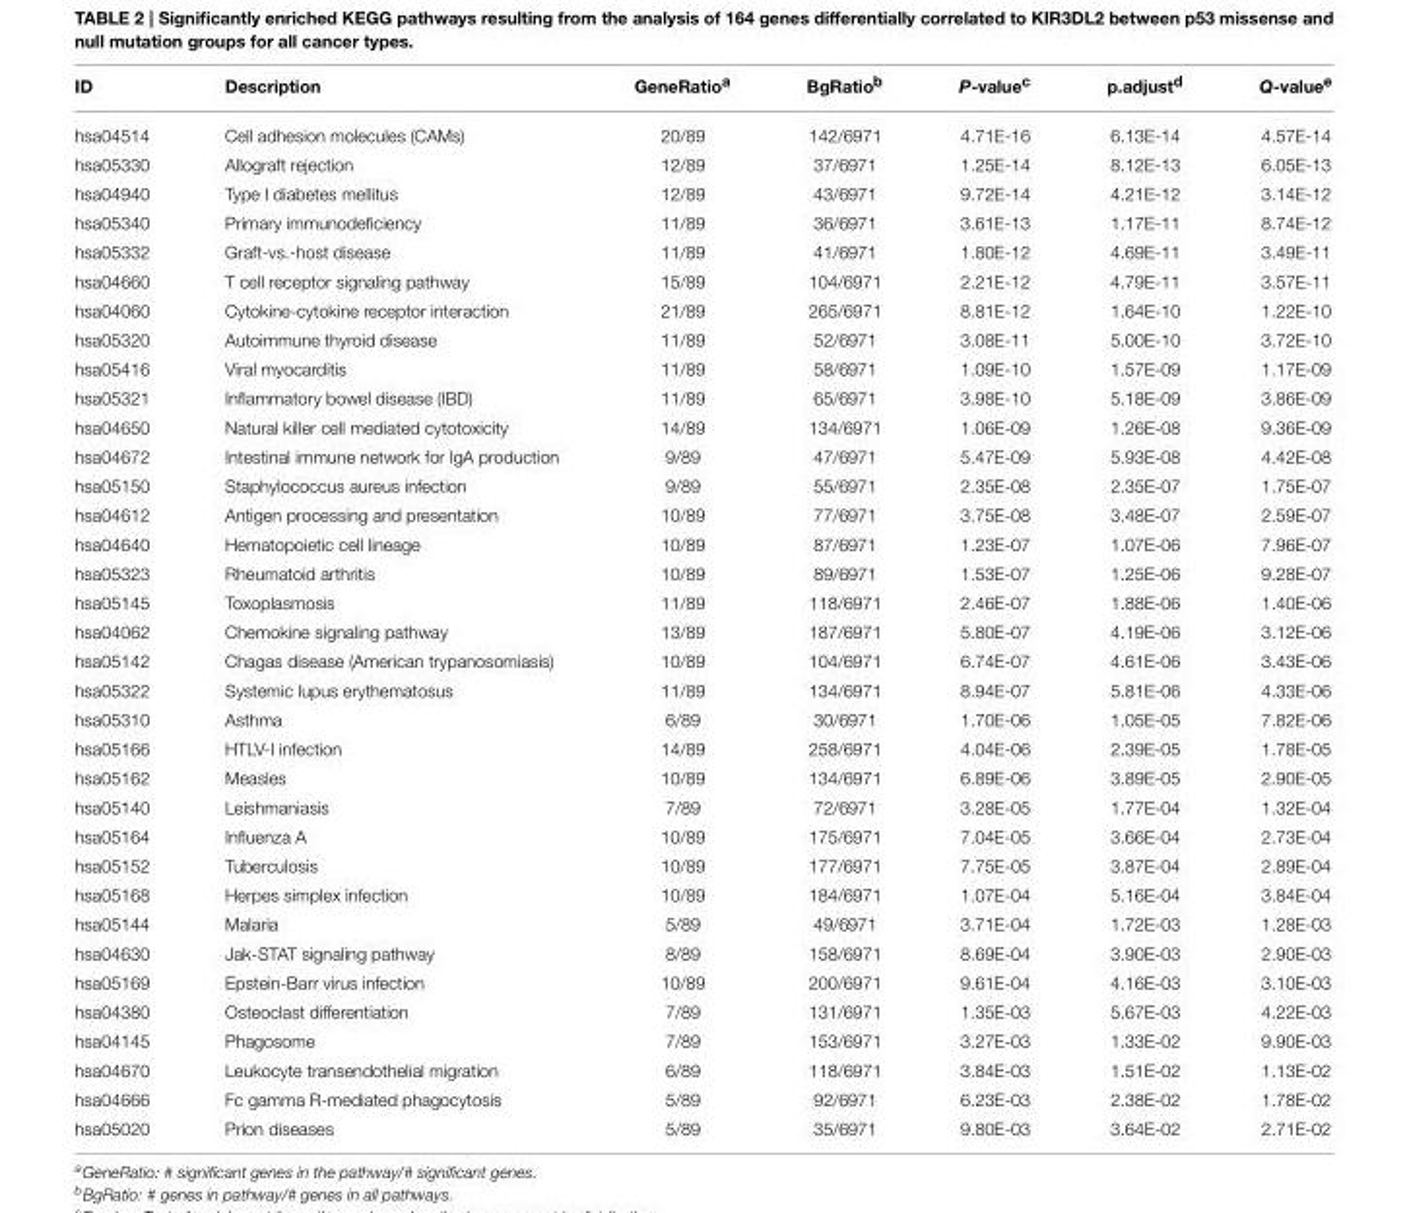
<table><thead><tr><td>ID</td><td>Description</td><td>GeneRatio<sup>a</sup></td><td>BgRatio<sup>b</sup></td><td>P-value<sup>c</sup></td><td>p.adjust<sup>d</sup></td><td>Q-value<sup>e</sup></td></tr></thead><tbody><tr><td>hsa04514</td><td>Cell adhesion molecules (CAMs)</td><td>20/89</td><td>142/6971</td><td>4.71E-16</td><td>6.13E-14</td><td>4.57E-14</td></tr><tr><td>hsa05330</td><td>Allograft rejection</td><td>12/89</td><td>37/6971</td><td>1.25E-14</td><td>8.12E-13</td><td>6.05E-13</td></tr><tr><td>hsa04940</td><td>Type I diabetes mellitus</td><td>12/89</td><td>43/6971</td><td>9.72E-14</td><td>4.21E-12</td><td>3.14E-12</td></tr><tr><td>hsa05340</td><td>Primary immunodeficiency</td><td>11/89</td><td>36/6971</td><td>3.61E-13</td><td>1.17E-11</td><td>8.74E-12</td></tr><tr><td>hsa05332</td><td>Graft-vs.-host disease</td><td>11/89</td><td>41/6971</td><td>1.80E-12</td><td>4.69E-11</td><td>3.49E-11</td></tr><tr><td>hsa04660</td><td>T cell receptor signaling pathway</td><td>15/89</td><td>104/6971</td><td>2.21E-12</td><td>4.79E-11</td><td>3.57E-11</td></tr><tr><td>hsa04060</td><td>Cytokine-cytokine receptor interaction</td><td>21/89</td><td>265/6971</td><td>8.81E-12</td><td>1.64E-10</td><td>1.22E-10</td></tr><tr><td>hsa05320</td><td>Autoimmune thyroid disease</td><td>11/89</td><td>52/6971</td><td>3.08E-11</td><td>5.00E-10</td><td>3.72E-10</td></tr><tr><td>hsa05416</td><td>Viral myocarditis</td><td>11/89</td><td>58/6971</td><td>1.09E-10</td><td>1.57E-09</td><td>1.17E-09</td></tr><tr><td>hsa05321</td><td>Inflammatory bowel disease (IBD)</td><td>11/89</td><td>65/6971</td><td>3.98E-10</td><td>5.18E-09</td><td>3.86E-09</td></tr><tr><td>hsa04650</td><td>Natural killer cell mediated cytotoxicity</td><td>14/89</td><td>134/6971</td><td>1.06E-09</td><td>1.26E-08</td><td>9.36E-09</td></tr><tr><td>hsa04672</td><td>Intestinal immune network for IgA production</td><td>9/89</td><td>47/6971</td><td>5.47E-09</td><td>5.93E-08</td><td>4.42E-08</td></tr><tr><td>hsa05150</td><td>Staphylococcus aureus infection</td><td>9/89</td><td>55/6971</td><td>2.35E-08</td><td>2.35E-07</td><td>1.75E-07</td></tr><tr><td>hsa04612</td><td>Antigen processing and presentation</td><td>10/89</td><td>77/6971</td><td>3.75E-08</td><td>3.48E-07</td><td>2.59E-07</td></tr><tr><td>hsa04640</td><td>Hematopoietic cell lineage</td><td>10/89</td><td>87/6971</td><td>1.23E-07</td><td>1.07E-06</td><td>7.96E-07</td></tr><tr><td>hsa05323</td><td>Rheumatoid arthritis</td><td>10/89</td><td>89/6971</td><td>1.53E-07</td><td>1.25E-06</td><td>9.28E-07</td></tr><tr><td>hsa05145</td><td>Toxoplasmosis</td><td>11/89</td><td>118/6971</td><td>2.46E-07</td><td>1.88E-06</td><td>1.40E-06</td></tr><tr><td>hsa04062</td><td>Chemokine signaling pathway</td><td>13/89</td><td>187/6971</td><td>5.80E-07</td><td>4.19E-06</td><td>3.12E-06</td></tr><tr><td>hsa05142</td><td>Chagas disease (American trypanosomiasis)</td><td>10/89</td><td>104/6971</td><td>6.74E-07</td><td>4.61E-06</td><td>3.43E-06</td></tr><tr><td>hsa05322</td><td>Systemic lupus erythematosus</td><td>11/89</td><td>134/6971</td><td>8.94E-07</td><td>5.81E-06</td><td>4.33E-06</td></tr><tr><td>hsa05310</td><td>Asthma</td><td>6/89</td><td>30/6971</td><td>1.70E-06</td><td>1.05E-05</td><td>7.82E-06</td></tr><tr><td>hsa05166</td><td>HTLV-I infection</td><td>14/89</td><td>258/6971</td><td>4.04E-06</td><td>2.39E-05</td><td>1.78E-05</td></tr><tr><td>hsa05162</td><td>Measles</td><td>10/89</td><td>134/6971</td><td>6.89E-06</td><td>3.89E-05</td><td>2.90E-05</td></tr><tr><td>hsa05140</td><td>Leishmaniasis</td><td>7/89</td><td>72/6971</td><td>3.28E-05</td><td>1.77E-04</td><td>1.32E-04</td></tr><tr><td>hsa05164</td><td>Influenza A</td><td>10/89</td><td>175/6971</td><td>7.04E-05</td><td>3.66E-04</td><td>2.73E-04</td></tr><tr><td>hsa05152</td><td>Tuberculosis</td><td>10/89</td><td>177/6971</td><td>7.75E-05</td><td>3.87E-04</td><td>2.89E-04</td></tr><tr><td>hsa05168</td><td>Herpes simplex infection</td><td>10/89</td><td>184/6971</td><td>1.07E-04</td><td>5.16E-04</td><td>3.84E-04</td></tr><tr><td>hsa05144</td><td>Malaria</td><td>5/89</td><td>49/6971</td><td>3.71E-04</td><td>1.72E-03</td><td>1.28E-03</td></tr><tr><td>hsa04630</td><td>Jak-STAT signaling pathway</td><td>8/89</td><td>158/6971</td><td>8.69E-04</td><td>3.90E-03</td><td>2.90E-03</td></tr><tr><td>hsa05169</td><td>Epstein-Barr virus infection</td><td>10/89</td><td>200/6971</td><td>9.61E-04</td><td>4.16E-03</td><td>3.10E-03</td></tr><tr><td>hsa04380</td><td>Osteoclast differentiation</td><td>7/89</td><td>131/6971</td><td>1.35E-03</td><td>5.67E-03</td><td>4.22E-03</td></tr><tr><td>hsa04145</td><td>Phagosome</td><td>7/89</td><td>153/6971</td><td>3.27E-03</td><td>1.33E-02</td><td>9.90E-03</td></tr><tr><td>hsa04670</td><td>Leukocyte transendothelial migration</td><td>6/89</td><td>118/6971</td><td>3.84E-03</td><td>1.51E-02</td><td>1.13E-02</td></tr><tr><td>hsa04666</td><td>Fc gamma R-mediated phagocytosis</td><td>5/89</td><td>92/6971</td><td>6.23E-03</td><td>2.38E-02</td><td>1.78E-02</td></tr><tr><td>hsa05020</td><td>Prion diseases</td><td>5/89</td><td>35/6971</td><td>9.80E-03</td><td>3.64E-02</td><td>2.71E-02</td></tr></tbody></table>